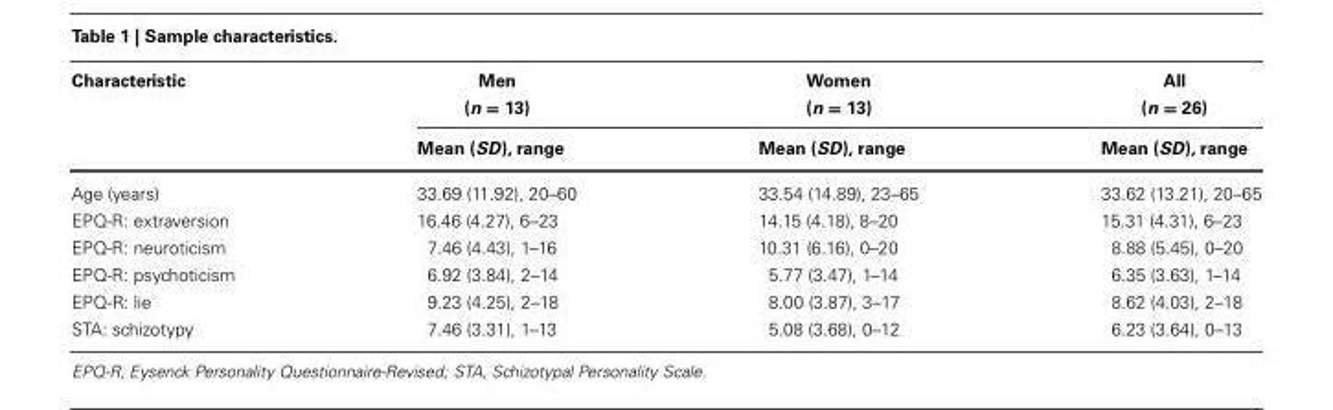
<table><thead><tr><td rowspan="3">Characteristic</td><td rowspan="3">Men (n = 13) Mean (SD), range</td><td rowspan="3">Women (n = 13) Mean (SD), range</td><td rowspan="3">All (n = 26) Mean (SD), range</td></tr><tr></tr><tr></tr></thead><tbody><tr><td>Age (years)</td><td>33.69 (11.92), 20–60</td><td>33.54 (14.89), 23–65</td><td>33.62 (13.21), 20–65</td></tr><tr><td>EPQ-R: extraversion</td><td>16.46 (4.27), 6–23</td><td>14.15 (4.18), 8–20</td><td>15.31 (4.31), 6–23</td></tr><tr><td>EPQ-R: neuroticism</td><td>7.46 (4.43), 1–16</td><td>10.31 (6.16), 0–20</td><td>8.88 (5.45), 0–20</td></tr><tr><td>EPQ-R: psychoticism</td><td>6.92 (3.84), 2–14</td><td>5.77 (3.47), 1–14</td><td>6.35 (3.63), 1–14</td></tr><tr><td>EPQ-R: lie</td><td>9.23 (4.25), 2–18</td><td>8.00 (3.87), 3–17</td><td>8.62 (4.03), 2–18</td></tr><tr><td>STA: schizotypy</td><td>7.46 (3.31), 1–13</td><td>5.08 (3.68), 0–12</td><td>6.23 (3.64), 0–13</td></tr></tbody></table>